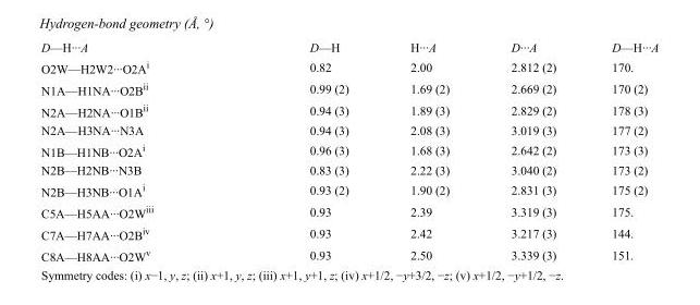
<table><tbody><tr><td>D—H···A</td><td>D—H</td><td>H···A</td><td>D···A</td><td>D—H···A</td></tr><tr><td>O2W—H2W2···O2A<sup>i</sup></td><td>0.82</td><td>2.00</td><td>2.812 (2)</td><td>170.</td></tr><tr><td>N1A—H1NA···O2B<sup>ii</sup></td><td>0.99 (2)</td><td>1.69 (2)</td><td>2.669 (2)</td><td>170 (2)</td></tr><tr><td>N2A—H2NA···O1B<sup>ii</sup></td><td>0.94 (3)</td><td>1.89 (3)</td><td>2.829 (2)</td><td>178 (3)</td></tr><tr><td>N2A—H3NA···N3A</td><td>0.94 (3)</td><td>2.08 (3)</td><td>3.019 (3)</td><td>177 (2)</td></tr><tr><td>N1B—H1NB···O2A<sup>i</sup></td><td>0.96 (3)</td><td>1.68 (3)</td><td>2.642 (2)</td><td>173 (3)</td></tr><tr><td>N2B—H2NB···N3B</td><td>0.83 (3)</td><td>2.22 (3)</td><td>3.040 (2)</td><td>173 (2)</td></tr><tr><td>N2B—H3NB···O1A<sup>i</sup></td><td>0.93 (2)</td><td>1.90 (2)</td><td>2.831 (3)</td><td>175 (2)</td></tr><tr><td>C5A—H5AA···O2W<sup>iii</sup></td><td>0.93</td><td>2.39</td><td>3.319 (3)</td><td>175.</td></tr><tr><td>C7A—H7AA···O2B<sup>iv</sup></td><td>0.93</td><td>2.42</td><td>3.217 (3)</td><td>144.</td></tr><tr><td>C8A—H8AA···O2W<sup>v</sup></td><td>0.93</td><td>2.50</td><td>3.339 (3)</td><td>151.</td></tr></tbody></table>